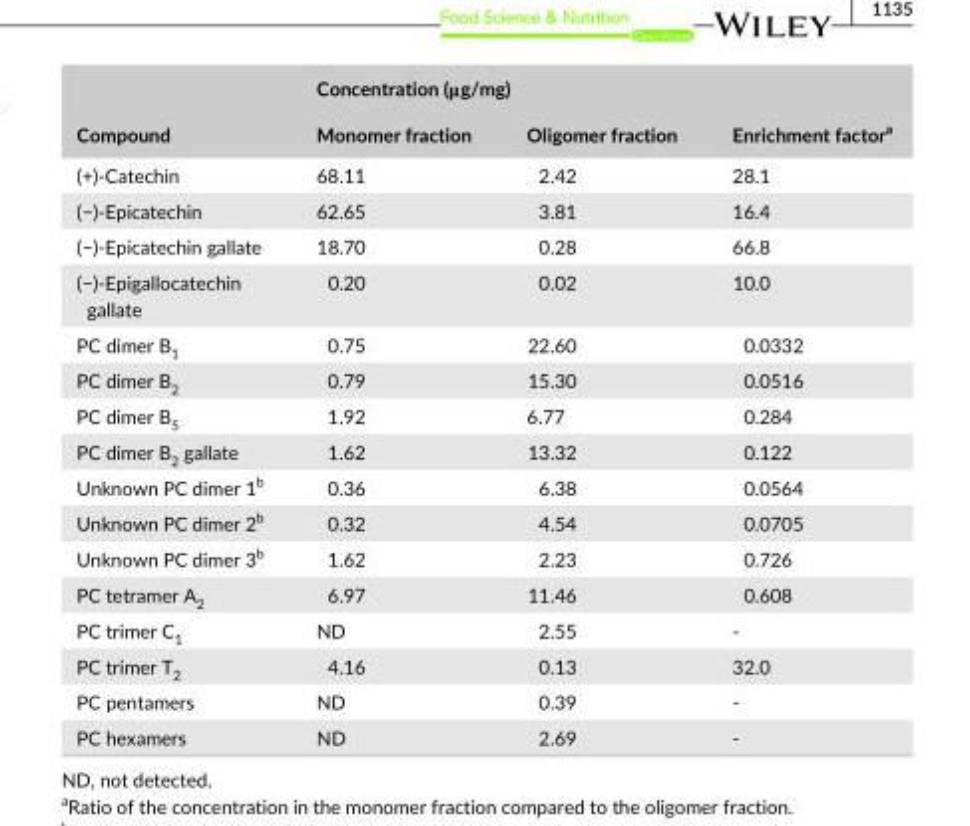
<table><thead><tr><td rowspan="2">Compound</td><td colspan="2">Concentration (μg/mg)</td><td rowspan="2">Enrichment factor<sup>a</sup></td></tr><tr><td>Monomer fraction</td><td>Oligomer fraction</td></tr></thead><tbody><tr><td>(+)- Catechin</td><td>68.11</td><td>2.42</td><td>28.1</td></tr><tr><td>(−)- Epicatechin</td><td>62.65</td><td>3.81</td><td>16.4</td></tr><tr><td>(−)- Epicatechin gallate</td><td>18.70</td><td>0.28</td><td>66.8</td></tr><tr><td>(−)- Epigallocatechin gallate</td><td>0.20</td><td>0.02</td><td>10.0</td></tr><tr><td>PC dimer B<sub>1</sub></td><td>0.75</td><td>22.60</td><td>0.0332</td></tr><tr><td>PC dimer B<sub>2</sub></td><td>0.79</td><td>15.30</td><td>0.0516</td></tr><tr><td>PC dimer B<sub>5</sub></td><td>1.92</td><td>6.77</td><td>0.284</td></tr><tr><td>PC dimer B<sub>2</sub> gallate</td><td>1.62</td><td>13.32</td><td>0.122</td></tr><tr><td>Unknown PC dimer 1<sup>b</sup></td><td>0.36</td><td>6.38</td><td>0.0564</td></tr><tr><td>Unknown PC dimer 2<sup>b</sup></td><td>0.32</td><td>4.54</td><td>0.0705</td></tr><tr><td>Unknown PC dimer 3<sup>b</sup></td><td>1.62</td><td>2.23</td><td>0.726</td></tr><tr><td>PC tetramer A<sub>2</sub></td><td>6.97</td><td>11.46</td><td>0.608</td></tr><tr><td>PC trimer C<sub>1</sub></td><td>ND</td><td>2.55</td><td>-</td></tr><tr><td>PC trimer T<sub>2</sub></td><td>4.16</td><td>0.13</td><td>32.0</td></tr><tr><td>PC pentamers</td><td>ND</td><td>0.39</td><td>-</td></tr><tr><td>PC hexamers</td><td>ND</td><td>2.69</td><td>-</td></tr></tbody></table>